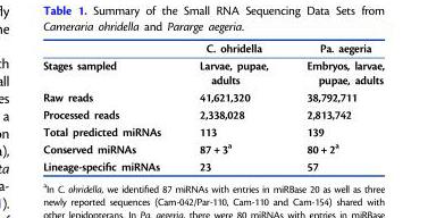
<table><thead><tr><td></td><td>C. ohridella</td><td>Pa. aegeria</td></tr></thead><tbody><tr><td>Stages sampled</td><td>Larvae, pupae, adults</td><td>Embryos, larvae, pupae, adults</td></tr><tr><td>Raw reads</td><td>41,621,320</td><td>38,792,711</td></tr><tr><td>Processed reads</td><td>2,338,028</td><td>2,813,742</td></tr><tr><td>Total predicted miRNAs</td><td>113</td><td>139</td></tr><tr><td>Conserved miRNAs</td><td>87+3<sup>a</sup></td><td>80+2<sup>a</sup></td></tr><tr><td>Lineage-specific miRNAs</td><td>23</td><td>57</td></tr></tbody></table>